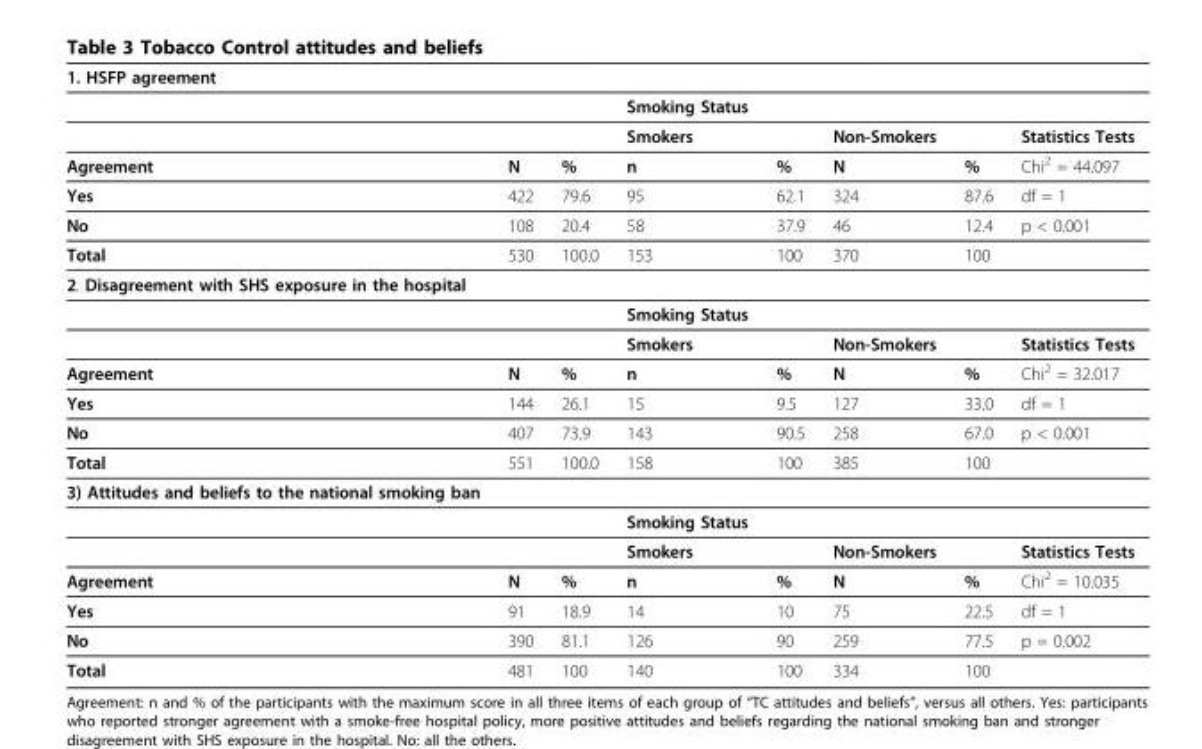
<table><thead><tr><td>1. HSFP agreement</td><td></td><td></td><td></td><td></td><td></td><td></td><td></td></tr></thead><tbody><tr><td></td><td></td><td></td><td>Smoking Status</td><td></td><td></td><td></td><td></td></tr><tr><td></td><td></td><td></td><td>Smokers</td><td></td><td>Non-Smokers</td><td></td><td>Statistics Tests</td></tr><tr><td>Agreement</td><td>N</td><td>%</td><td>n</td><td>%</td><td>N</td><td>%</td><td>Chi2 = 44.097</td></tr><tr><td>Yes</td><td>422</td><td>79.6</td><td>95</td><td>62.1</td><td>324</td><td>87.6</td><td>df = 1</td></tr><tr><td>No</td><td>108</td><td>20.4</td><td>58</td><td>37.9</td><td>46</td><td>12.4</td><td>p &lt; 0.001</td></tr><tr><td>Total</td><td>530</td><td>100.0</td><td>153</td><td>100</td><td>370</td><td>100</td><td></td></tr><tr><td colspan="8">2. Disagreement with SHS exposure in the hospital</td></tr><tr><td></td><td></td><td></td><td>Smoking Status</td><td></td><td></td><td></td><td></td></tr><tr><td></td><td></td><td></td><td>Smokers</td><td></td><td>Non-Smokers</td><td></td><td>Statistics Tests</td></tr><tr><td>Agreement</td><td>N</td><td>%</td><td>n</td><td>%</td><td>N</td><td>%</td><td>Chi2 = 32.017</td></tr><tr><td>Yes</td><td>144</td><td>26.1</td><td>15</td><td>9.5</td><td>127</td><td>33.0</td><td>df = 1</td></tr><tr><td>No</td><td>407</td><td>73.9</td><td>143</td><td>90.5</td><td>258</td><td>67.0</td><td>p &lt; 0.001</td></tr><tr><td>Total</td><td>551</td><td>100.0</td><td>158</td><td>100</td><td>385</td><td>100</td><td></td></tr><tr><td colspan="8">3) Attitudes and beliefs to the national smoking ban</td></tr><tr><td></td><td></td><td></td><td>Smoking Status</td><td></td><td></td><td></td><td></td></tr><tr><td></td><td></td><td></td><td>Smokers</td><td></td><td>Non-Smokers</td><td></td><td>Statistics Tests</td></tr><tr><td>Agreement</td><td>N</td><td>%</td><td>n</td><td>%</td><td>N</td><td>%</td><td>Chi2 = 10.035</td></tr><tr><td>Yes</td><td>91</td><td>18.9</td><td>14</td><td>10</td><td>75</td><td>22.5</td><td>df = 1</td></tr><tr><td>No</td><td>390</td><td>81.1</td><td>126</td><td>90</td><td>259</td><td>77.5</td><td>p = 0.002</td></tr><tr><td>Total</td><td>481</td><td>100</td><td>140</td><td>100</td><td>334</td><td>100</td><td></td></tr></tbody></table>